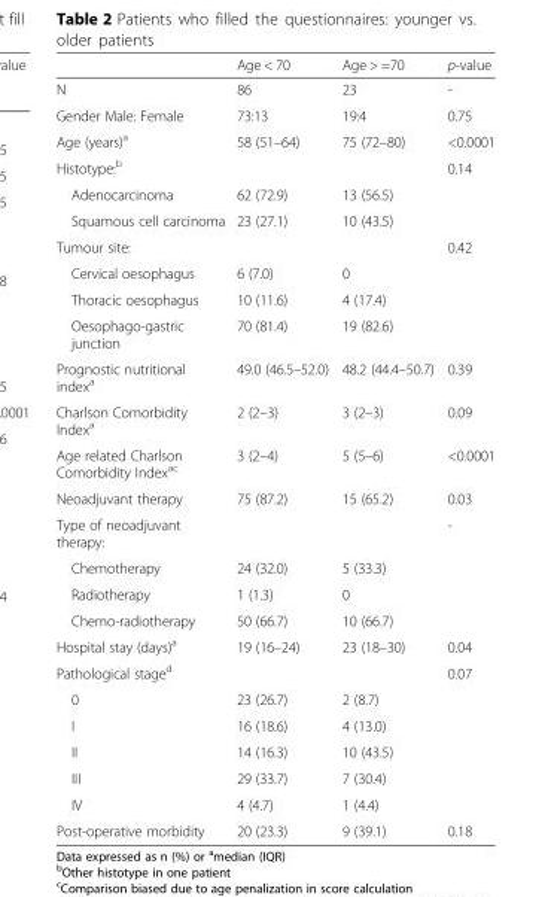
<table><thead><tr><td></td><td>Age &lt; 70</td><td>Age &gt; =70</td><td>p-value</td></tr></thead><tbody><tr><td>N</td><td>86</td><td>23</td><td>-</td></tr><tr><td>Gender Male: Female</td><td>73:13</td><td>19:4</td><td>0.75</td></tr><tr><td>Age (years)<sup>a</sup></td><td>58 (51–64)</td><td>75 (72–80)</td><td>&lt;0.0001</td></tr><tr><td>Histotype:<sup>b</sup></td><td></td><td></td><td>0.14</td></tr><tr><td>Adenocarcinoma</td><td>62 (72.9)</td><td>13 (56.5)</td><td></td></tr><tr><td>Squamous cell carcinoma</td><td>23 (27.1)</td><td>10 (43.5)</td><td></td></tr><tr><td>Tumour site:</td><td></td><td></td><td>0.42</td></tr><tr><td>Cervical oesophagus</td><td>6 (7.0)</td><td>0</td><td></td></tr><tr><td>Thoracic oesophagus</td><td>10 (11.6)</td><td>4 (17.4)</td><td></td></tr><tr><td>Oesophago-gastric junction</td><td>70 (81.4)</td><td>19 (82.6)</td><td></td></tr><tr><td>Prognostic nutritional index<sup>a</sup></td><td>49.0 (46.5–52.0)</td><td>48.2 (44.4–50.7)</td><td>0.39</td></tr><tr><td>Charlson Comorbidity Index<sup>a</sup></td><td>2 (2–3)</td><td>3 (2–3)</td><td>0.09</td></tr><tr><td>Age related Charlson Comorbidity Index<sup>ac</sup></td><td>3 (2–4)</td><td>5 (5–6)</td><td>&lt;0.0001</td></tr><tr><td>Neoadjuvant therapy</td><td>75 (87.2)</td><td>15 (65.2)</td><td>0.03</td></tr><tr><td>Type of neoadjuvant therapy:</td><td></td><td></td><td>-</td></tr><tr><td>Chemotherapy</td><td>24 (32.0)</td><td>5 (33.3)</td><td></td></tr><tr><td>Radiotherapy</td><td>1 (1.3)</td><td>0</td><td></td></tr><tr><td>Chemo-radiotherapy</td><td>50 (66.7)</td><td>10 (66.7)</td><td></td></tr><tr><td>Hospital stay (days)<sup>a</sup></td><td>19 (16–24)</td><td>23 (18–30)</td><td>0.04</td></tr><tr><td>Pathological stage<sup>d</sup></td><td></td><td></td><td>0.07</td></tr><tr><td>0</td><td>23 (26.7)</td><td>2 (8.7)</td><td></td></tr><tr><td>I</td><td>16 (18.6)</td><td>4 (13.0)</td><td></td></tr><tr><td>II</td><td>14 (16.3)</td><td>10 (43.5)</td><td></td></tr><tr><td>III</td><td>29 (33.7)</td><td>7 (30.4)</td><td></td></tr><tr><td>IV</td><td>4 (4.7)</td><td>1 (4.4)</td><td></td></tr><tr><td>Post-operative morbidity</td><td>20 (23.3)</td><td>9 (39.1)</td><td>0.18</td></tr></tbody></table>